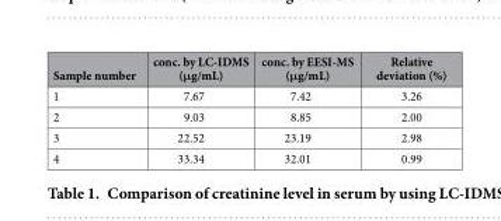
<table><thead><tr><td>Sample number</td><td>conc. by LC-IDMS (μg/mL)</td><td>conc. by EESI-MS (μg/mL)</td><td>Relative deviation (%)</td></tr></thead><tbody><tr><td>1</td><td>7.67</td><td>7.42</td><td>3.26</td></tr><tr><td>2</td><td>9.03</td><td>8.85</td><td>2.00</td></tr><tr><td>3</td><td>22.52</td><td>23.19</td><td>2.98</td></tr><tr><td>4</td><td>33.34</td><td>32.01</td><td>0.99</td></tr></tbody></table>